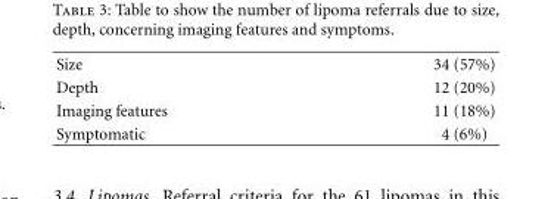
<table><tbody><tr><td>Size</td><td>34 (57%)</td></tr><tr><td>Depth</td><td>12 (20%)</td></tr><tr><td>Imaging features</td><td>11 (18%)</td></tr><tr><td>Symptomatic</td><td>4 (6%)</td></tr></tbody></table>